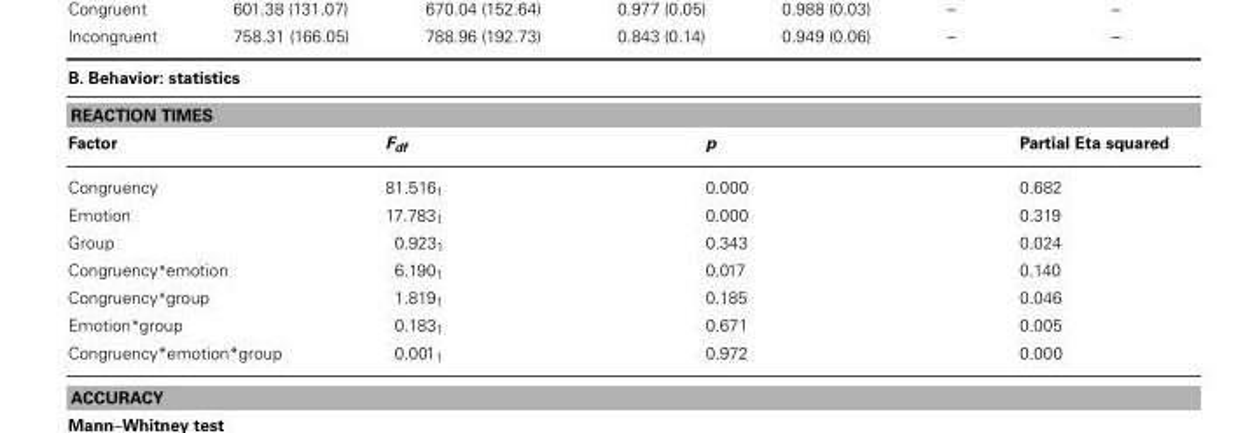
<table><thead><tr><td rowspan="2" colspan="4">B. Behavior: statistics REACTION TIMES</td></tr><tr></tr><tr><td>Factor</td><td>F<sub>df</sub></td><td>p</td><td>Partial Eta squared</td></tr></thead><tbody><tr><td>Congruency</td><td>81.516<sub>1</sub></td><td>0.000</td><td>0.682</td></tr><tr><td>Emotion</td><td>17.783<sub>1</sub></td><td>0.000</td><td>0.319</td></tr><tr><td>Group</td><td>0.923<sub>1</sub></td><td>0.343</td><td>0.024</td></tr><tr><td>Congruency*emotion</td><td>6.190<sub>1</sub></td><td>0.017</td><td>0.140</td></tr><tr><td>Congruency*group</td><td>1.819<sub>1</sub></td><td>0.185</td><td>0.046</td></tr><tr><td>Emotion*group</td><td>0.183<sub>1</sub></td><td>0.671</td><td>0.005</td></tr><tr><td>Congruency*emotion*group</td><td>0.001<sub>1</sub></td><td>0.972</td><td>0.000</td></tr></tbody></table>